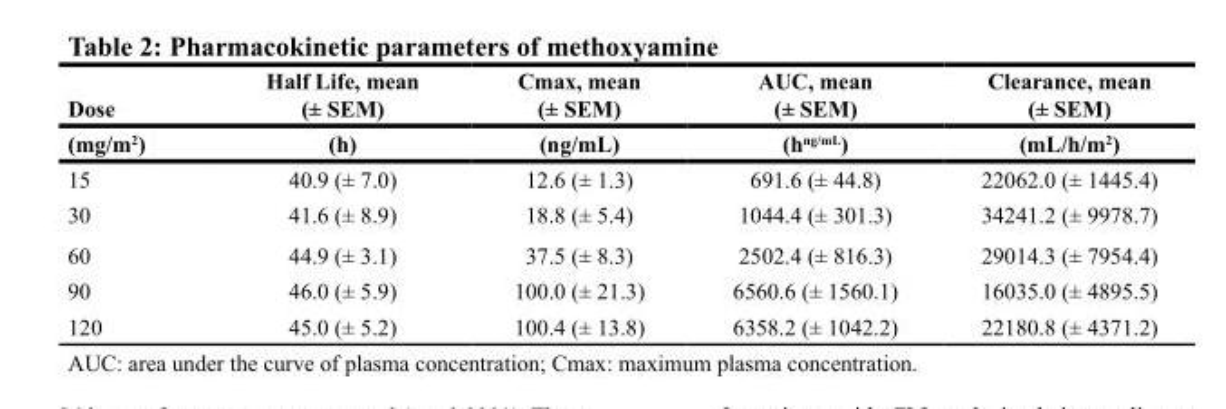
<table><thead><tr><td rowspan="2">Dose (mg/m<sup>2</sup>)</td><td rowspan="2">Half Life, mean (± SEM) (h)</td><td rowspan="2">Cmax, mean (± SEM) (ng/mL)</td><td rowspan="2">AUC, mean (± SEM) (h<sup>ng/mL</sup>)</td><td rowspan="2">Clearance, mean (± SEM) (mL/h/m<sup>2</sup>)</td></tr><tr></tr></thead><tbody><tr><td>15</td><td>40.9 (± 7.0)</td><td>12.6 (± 1.3)</td><td>691.6 (± 44.8)</td><td>22062.0 (± 1445.4)</td></tr><tr><td>30</td><td>41.6 (± 8.9)</td><td>18.8 (± 5.4)</td><td>1044.4 (± 301.3)</td><td>34241.2 (± 9978.7)</td></tr><tr><td>60</td><td>44.9 (± 3.1)</td><td>37.5 (± 8.3)</td><td>2502.4 (± 816.3)</td><td>29014.3 (± 7954.4)</td></tr><tr><td>90</td><td>46.0 (± 5.9)</td><td>100.0 (± 21.3)</td><td>6560.6 (± 1560.1)</td><td>16035.0 (± 4895.5)</td></tr><tr><td>120</td><td>45.0 (± 5.2)</td><td>100.4 (± 13.8)</td><td>6358.2 (± 1042.2)</td><td>22180.8 (± 4371.2)</td></tr></tbody></table>